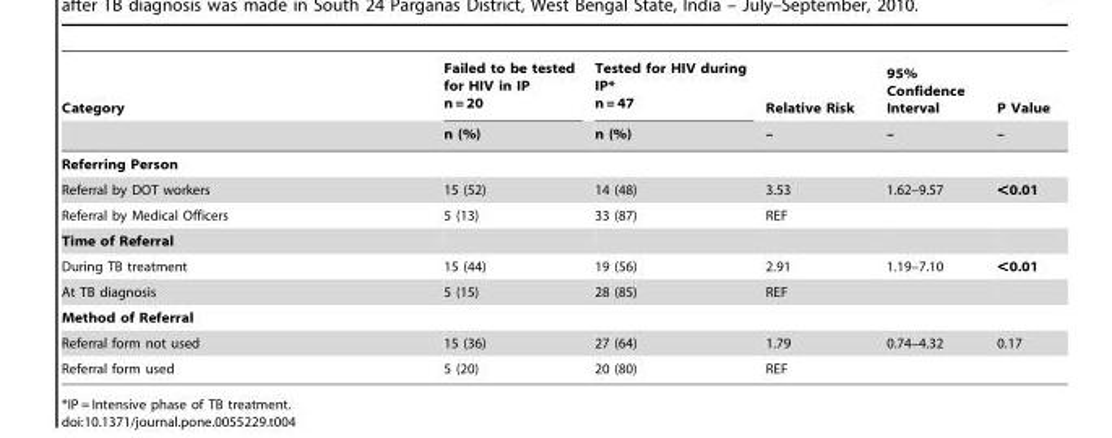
<table><thead><tr><td rowspan="2">Category</td><td rowspan="2">Failed to be tested for HIV in IP n = 20 n (%)</td><td rowspan="2">Tested for HIV during IP* n = 47 n (%)</td><td rowspan="2">Relative Risk –</td><td rowspan="2">95% Confidence Interval –</td><td rowspan="2">P Value –</td></tr><tr></tr></thead><tbody><tr><td colspan="6">Referring Person</td></tr><tr><td>Referral by DOT workers</td><td>15 (52)</td><td>14 (48)</td><td>3.53</td><td>1.62–9.57</td><td>&lt;0.01</td></tr><tr><td>Referral by Medical Officers</td><td>5 (13)</td><td>33 (87)</td><td>REF</td><td></td><td></td></tr><tr><td colspan="6">Time of Referral</td></tr><tr><td>During TB treatment</td><td>15 (44)</td><td>19 (56)</td><td>2.91</td><td>1.19–7.10</td><td>&lt;0.01</td></tr><tr><td>At TB diagnosis</td><td>5 (15)</td><td>28 (85)</td><td>REF</td><td></td><td></td></tr><tr><td colspan="6">Method of Referral</td></tr><tr><td>Referral form not used</td><td>15 (36)</td><td>27 (64)</td><td>1.79</td><td>0.74–4.32</td><td>0.17</td></tr><tr><td>Referral form used</td><td>5 (20)</td><td>20 (80)</td><td>REF</td><td></td><td></td></tr></tbody></table>